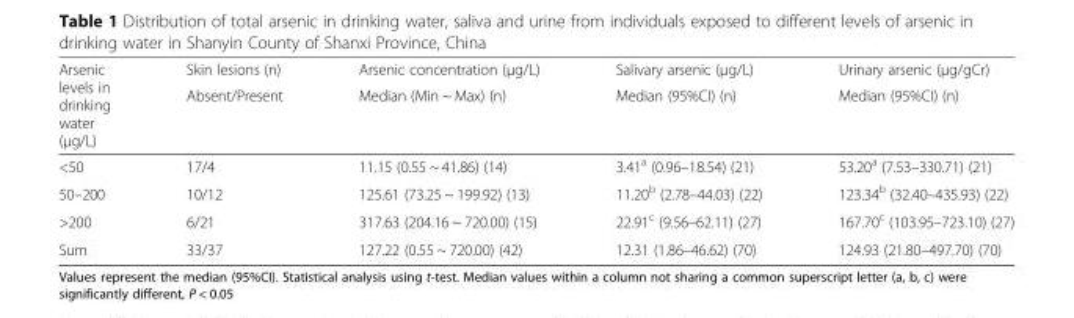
<table><thead><tr><td rowspan="2">Arsenic levels in drinking water (μg/L)</td><td rowspan="2">Skin lesions (n) Absent/Present</td><td rowspan="2">Arsenic concentration (μg/L) Median (Min ~ Max) (n)</td><td rowspan="2">Salivary arsenic (μg/L) Median (95%CI) (n)</td><td rowspan="2">Urinary arsenic (μg/gCr) Median (95%CI) (n)</td></tr><tr></tr></thead><tbody><tr><td>&lt;50</td><td>17/4</td><td>11.15 (0.55 ~ 41.86) (14)</td><td>3.41<sup>a</sup> (0.96–18.54) (21)</td><td>53.20<sup>a</sup> (7.53–330.71) (21)</td></tr><tr><td>50–200</td><td>10/12</td><td>125.61 (73.25 ~ 199.92) (13)</td><td>11.20<sup>b</sup> (2.78–44.03) (22)</td><td>123.34<sup>b</sup> (32.40–435.93) (22)</td></tr><tr><td>&gt;200</td><td>6/21</td><td>317.63 (204.16 ~ 720.00) (15)</td><td>22.91<sup>c</sup> (9.56–62.11) (27)</td><td>167.70<sup>c</sup> (103.95–723.10) (27)</td></tr><tr><td>Sum</td><td>33/37</td><td>127.22 (0.55 ~ 720.00) (42)</td><td>12.31 (1.86–46.62) (70)</td><td>124.93 (21.80–497.70) (70)</td></tr></tbody></table>